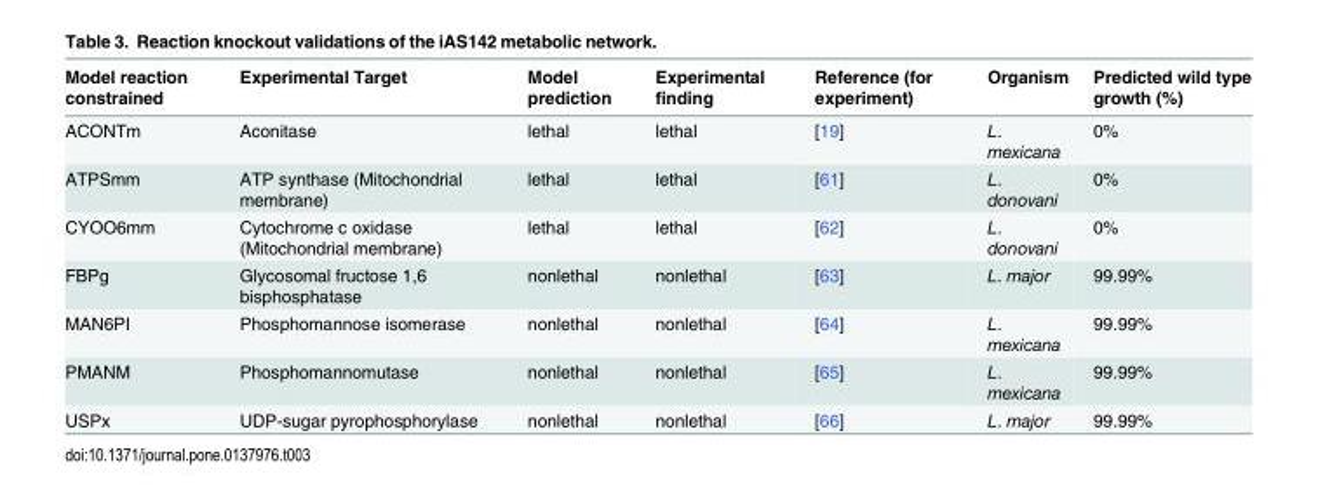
<table><thead><tr><td>Model reaction constrained</td><td>Experimental Target</td><td>Model prediction</td><td>Experimental finding</td><td>Reference (for experiment)</td><td>Organism</td><td>Predicted wild type growth (%)</td></tr></thead><tbody><tr><td>ACONTm</td><td>Aconitase</td><td>lethal</td><td>lethal</td><td>[19]</td><td>L. mexicana</td><td>0%</td></tr><tr><td>ATPSmm</td><td>ATP synthase (Mitochondrial membrane)</td><td>lethal</td><td>lethal</td><td>[61]</td><td>L. donovani</td><td>0%</td></tr><tr><td>CYOO6mm</td><td>Cytochrome c oxidase (Mitochondrial membrane)</td><td>lethal</td><td>lethal</td><td>[62]</td><td>L. donovani</td><td>0%</td></tr><tr><td>FBPg</td><td>Glycosomal fructose 1,6 bisphosphatase</td><td>nonlethal</td><td>nonlethal</td><td>[63]</td><td>L. major</td><td>99.99%</td></tr><tr><td>MAN6PI</td><td>Phosphomannose isomerase</td><td>nonlethal</td><td>nonlethal</td><td>[64]</td><td>L. mexicana</td><td>99.99%</td></tr><tr><td>PMANM</td><td>Phosphomannomutase</td><td>nonlethal</td><td>nonlethal</td><td>[65]</td><td>L. mexicana</td><td>99.99%</td></tr><tr><td>USPx</td><td>UDP-sugar pyrophosphorylase</td><td>nonlethal</td><td>nonlethal</td><td>[66]</td><td>L. major</td><td>99.99%</td></tr></tbody></table>